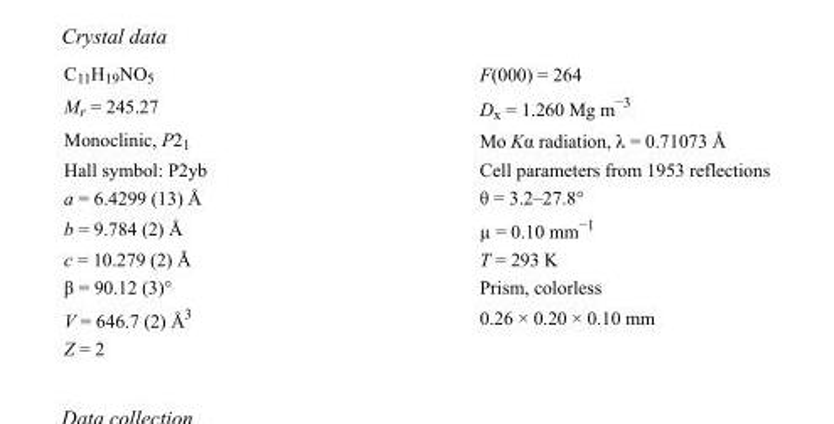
<table><tbody><tr><td>C<sub>11</sub>H<sub>19</sub>NO<sub>5</sub></td><td>F(000) = 264</td></tr><tr><td>M<sub>r</sub> = 245.27</td><td>D<sub>x</sub> = 1.260 Mg m<sup>−3</sup></td></tr><tr><td>Monoclinic, P2<sub>1</sub></td><td>Mo Kα radiation, λ = 0.71073 Å</td></tr><tr><td>Hall symbol: P2yb</td><td>Cell parameters from 1953 reflections</td></tr><tr><td>a = 6.4299 (13) Å</td><td>θ = 3.2–27.8°</td></tr><tr><td>b = 9.784 (2) Å</td><td>µ = 0.10 mm<sup>−1</sup></td></tr><tr><td>c = 10.279 (2) Å</td><td>T = 293 K</td></tr><tr><td>β = 90.12 (3)°</td><td>Prism, colorless</td></tr><tr><td>V = 646.7 (2) Å<sup>3</sup></td><td>0.26 × 0.20 × 0.10 mm</td></tr><tr><td>Z = 2</td><td></td></tr></tbody></table>